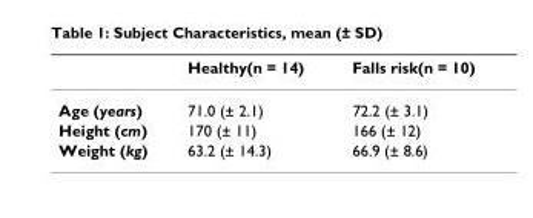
<table><thead><tr><td></td><td>Healthy(n = 14)</td><td>Falls risk(n = 10)</td></tr></thead><tbody><tr><td>Age (years)</td><td>71.0 (± 2.1)</td><td>72.2 (± 3.1)</td></tr><tr><td>Height (cm)</td><td>170 (± 11)</td><td>166 (± 12)</td></tr><tr><td>Weight (kg)</td><td>63.2 (± 14.3)</td><td>66.9 (± 8.6)</td></tr></tbody></table>